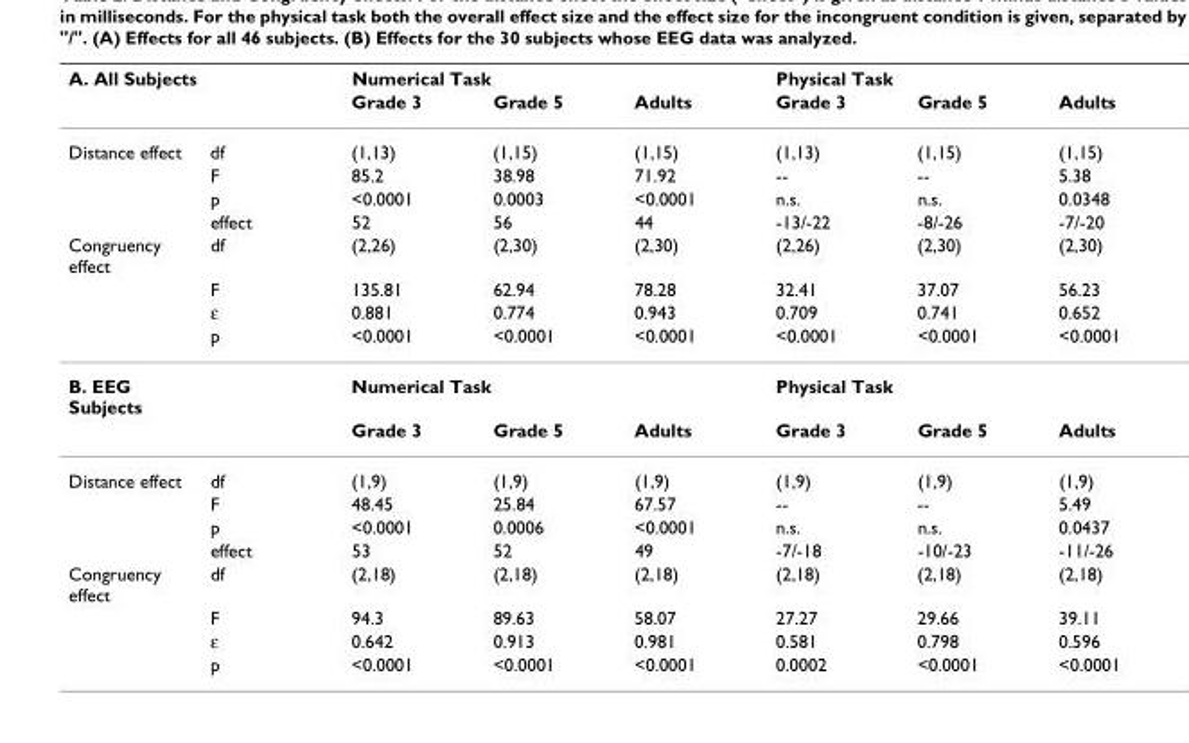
<table><thead><tr><td colspan="2">A. All Subjects</td><td colspan="3">Numerical Task</td><td colspan="3">Physical Task</td></tr><tr><td></td><td></td><td>Grade 3</td><td>Grade 5</td><td>Adults</td><td>Grade 3</td><td>Grade 5</td><td>Adults</td></tr></thead><tbody><tr><td rowspan="4">Distance effect</td><td>df</td><td>(1,13)</td><td>(1,15)</td><td>(1,15)</td><td>(1,13)</td><td>(1,15)</td><td>(1,15)</td></tr><tr><td>F</td><td>85.2</td><td>38.98</td><td>71.92</td><td>--</td><td>--</td><td>5.38</td></tr><tr><td>p</td><td>&lt;0.0001</td><td>0.0003</td><td>&lt;0.0001</td><td>n.s.</td><td>n.s.</td><td>0.0348</td></tr><tr><td>effect</td><td>52</td><td>56</td><td>44</td><td>-13/-22</td><td>-8/-26</td><td>-7/-20</td></tr><tr><td rowspan="4">Congruency effect</td><td>df</td><td>(2,26)</td><td>(2,30)</td><td>(2,30)</td><td>(2,26)</td><td>(2,30)</td><td>(2,30)</td></tr><tr><td>F</td><td>135.81</td><td>62.94</td><td>78.28</td><td>32.41</td><td>37.07</td><td>56.23</td></tr><tr><td>ε</td><td>0.881</td><td>0.774</td><td>0.943</td><td>0.709</td><td>0.741</td><td>0.652</td></tr><tr><td>p</td><td>&lt;0.0001</td><td>&lt;0.0001</td><td>&lt;0.0001</td><td>&lt;0.0001</td><td>&lt;0.0001</td><td>&lt;0.0001</td></tr><tr><td rowspan="2">B. EEG Subjects</td><td></td><td colspan="3">Numerical Task</td><td colspan="3">Physical Task</td></tr><tr><td></td><td>Grade 3</td><td>Grade 5</td><td>Adults</td><td>Grade 3</td><td>Grade 5</td><td>Adults</td></tr><tr><td rowspan="4">Distance effect</td><td>df</td><td>(1,9)</td><td>(1,9)</td><td>(1,9)</td><td>(1,9)</td><td>(1,9)</td><td>(1,9)</td></tr><tr><td>F</td><td>48.45</td><td>25.84</td><td>67.57</td><td>--</td><td>--</td><td>5.49</td></tr><tr><td>p</td><td>&lt;0.0001</td><td>0.0006</td><td>&lt;0.0001</td><td>n.s.</td><td>n.s.</td><td>0.0437</td></tr><tr><td>effect</td><td>53</td><td>52</td><td>49</td><td>-7/-18</td><td>-10/-23</td><td>-11/-26</td></tr><tr><td rowspan="4">Congruency effect</td><td>df</td><td>(2,18)</td><td>(2,18)</td><td>(2,18)</td><td>(2,18)</td><td>(2,18)</td><td>(2,18)</td></tr><tr><td>F</td><td>94.3</td><td>89.63</td><td>58.07</td><td>27.27</td><td>29.66</td><td>39.11</td></tr><tr><td>ε</td><td>0.642</td><td>0.913</td><td>0.981</td><td>0.581</td><td>0.798</td><td>0.596</td></tr><tr><td>p</td><td>&lt;0.0001</td><td>&lt;0.0001</td><td>&lt;0.0001</td><td>0.0002</td><td>&lt;0.0001</td><td>&lt;0.0001</td></tr></tbody></table>